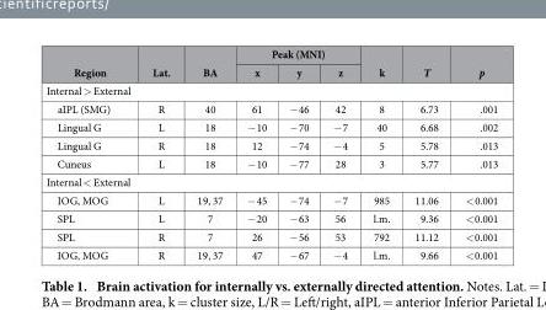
<table><thead><tr><td rowspan="2">Region</td><td rowspan="2">Lat.</td><td rowspan="2">BA</td><td colspan="3">Peak (MNI)</td><td rowspan="2">k</td><td rowspan="2">T</td><td rowspan="2">p</td></tr><tr><td>x</td><td>y</td><td>z</td></tr></thead><tbody><tr><td colspan="9">Internal &gt; External</td></tr><tr><td>aIPL (SMG)</td><td>R</td><td>40</td><td>61</td><td>− 46</td><td>42</td><td>8</td><td>6.73</td><td>.001</td></tr><tr><td>Lingual G</td><td>L</td><td>18</td><td>− 10</td><td>− 70</td><td>− 7</td><td>40</td><td>6.68</td><td>.002</td></tr><tr><td>Lingual G</td><td>R</td><td>18</td><td>12</td><td>− 74</td><td>− 4</td><td>5</td><td>5.78</td><td>.013</td></tr><tr><td>Cuneus</td><td>L</td><td>18</td><td>− 10</td><td>− 77</td><td>28</td><td>3</td><td>5.77</td><td>.013</td></tr><tr><td colspan="9">Internal &lt; External</td></tr><tr><td>IOG, MOG</td><td>L</td><td>19, 37</td><td>− 45</td><td>− 74</td><td>− 7</td><td>985</td><td>11.06</td><td>&lt; 0.001</td></tr><tr><td>SPL</td><td>L</td><td>7</td><td>− 20</td><td>− 63</td><td>56</td><td>l.m.</td><td>9.36</td><td>&lt; 0.001</td></tr><tr><td>SPL</td><td>R</td><td>7</td><td>26</td><td>− 56</td><td>53</td><td>792</td><td>11.12</td><td>&lt; 0.001</td></tr><tr><td>IOG, MOG</td><td>R</td><td>19, 37</td><td>47</td><td>− 67</td><td>− 4</td><td>l.m.</td><td>9.66</td><td>&lt; 0.001</td></tr></tbody></table>